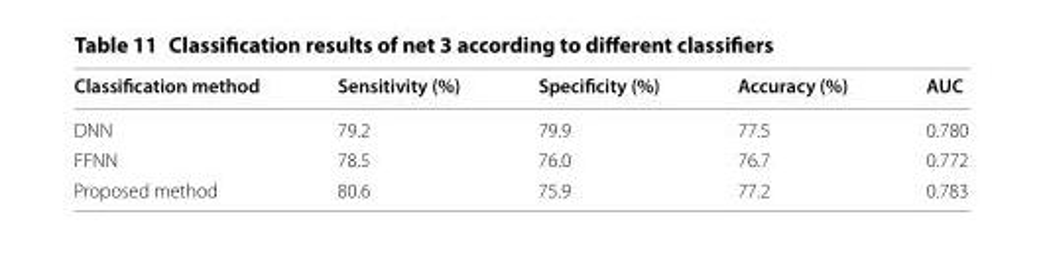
<table><thead><tr><td>Classification method</td><td>Sensitivity (%)</td><td>Specificity (%)</td><td>Accuracy (%)</td><td>AUC</td></tr></thead><tbody><tr><td>DNN</td><td>79.2</td><td>79.9</td><td>77.5</td><td>0.780</td></tr><tr><td>FFNN</td><td>78.5</td><td>76.0</td><td>76.7</td><td>0.772</td></tr><tr><td>Proposed method</td><td>80.6</td><td>75.9</td><td>77.2</td><td>0.783</td></tr></tbody></table>